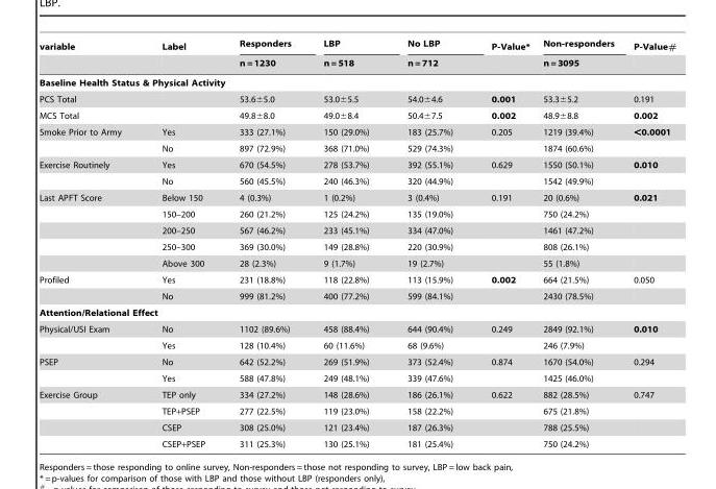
<table><thead><tr><td rowspan="2">variable</td><td rowspan="2">Label</td><td rowspan="2">Responders n = 1230</td><td rowspan="2">LBP n = 518</td><td rowspan="2">No LBP n = 712</td><td rowspan="2">P-Value*</td><td rowspan="2">Non-responders n = 3095</td><td rowspan="2">P-Value#</td></tr><tr></tr></thead><tbody><tr><td colspan="8">Baseline Health Status &amp; Physical Activity</td></tr><tr><td>PCS Total</td><td></td><td>53.6±5.0</td><td>53.0±5.5</td><td>54.0±4.6</td><td>0.001</td><td>53.3±5.2</td><td>0.191</td></tr><tr><td>MCS Total</td><td></td><td>49.8±8.0</td><td>49.0±8.4</td><td>50.4±7.5</td><td>0.002</td><td>48.9±8.8</td><td>0.002</td></tr><tr><td rowspan="2">Smoke Prior to Army</td><td>Yes</td><td>333 (27.1%)</td><td>150 (29.0%)</td><td>183 (25.7%)</td><td>0.205</td><td>1219 (39.4%)</td><td>&lt;0.0001</td></tr><tr><td>No</td><td>897 (72.9%)</td><td>368 (71.0%)</td><td>529 (74.3%)</td><td></td><td>1874 (60.6%)</td><td></td></tr><tr><td rowspan="2">Exercise Routinely</td><td>Yes</td><td>670 (54.5%)</td><td>278 (53.7%)</td><td>392 (55.1%)</td><td>0.629</td><td>1550 (50.1%)</td><td>0.010</td></tr><tr><td>No</td><td>560 (45.5%)</td><td>240 (46.3%)</td><td>320 (44.9%)</td><td></td><td>1542 (49.9%)</td><td></td></tr><tr><td rowspan="5">Last APFT Score</td><td>Below 150</td><td>4 (0.3%)</td><td>1 (0.2%)</td><td>3 (0.4%)</td><td>0.191</td><td>20 (0.6%)</td><td>0.021</td></tr><tr><td>150–200</td><td>260 (21.2%)</td><td>125 (24.2%)</td><td>135 (19.0%)</td><td></td><td>750 (24.2%)</td><td></td></tr><tr><td>200–250</td><td>567 (46.2%)</td><td>233 (45.1%)</td><td>334 (47.0%)</td><td></td><td>1461 (47.2%)</td><td></td></tr><tr><td>250–300</td><td>369 (30.0%)</td><td>149 (28.8%)</td><td>220 (30.9%)</td><td></td><td>808 (26.1%)</td><td></td></tr><tr><td>Above 300</td><td>28 (2.3%)</td><td>9 (1.7%)</td><td>19 (2.7%)</td><td></td><td>55 (1.8%)</td><td></td></tr><tr><td rowspan="2">Profiled</td><td>Yes</td><td>231 (18.8%)</td><td>118 (22.8%)</td><td>113 (15.9%)</td><td>0.002</td><td>664 (21.5%)</td><td>0.050</td></tr><tr><td>No</td><td>999 (81.2%)</td><td>400 (77.2%)</td><td>599 (84.1%)</td><td></td><td>2430 (78.5%)</td><td></td></tr><tr><td colspan="8">Attention/Relational Effect</td></tr><tr><td rowspan="2">Physical/USI Exam</td><td>No</td><td>1102 (89.6%)</td><td>458 (88.4%)</td><td>644 (90.4%)</td><td>0.249</td><td>2849 (92.1%)</td><td>0.010</td></tr><tr><td>Yes</td><td>128 (10.4%)</td><td>60 (11.6%)</td><td>68 (9.6%)</td><td></td><td>246 (7.9%)</td><td></td></tr><tr><td rowspan="2">PSEP</td><td>No</td><td>642 (52.2%)</td><td>269 (51.9%)</td><td>373 (52.4%)</td><td>0.874</td><td>1670 (54.0%)</td><td>0.294</td></tr><tr><td>Yes</td><td>588 (47.8%)</td><td>249 (48.1%)</td><td>339 (47.6%)</td><td></td><td>1425 (46.0%)</td><td></td></tr><tr><td rowspan="4">Exercise Group</td><td>TEP only</td><td>334 (27.2%)</td><td>148 (28.6%)</td><td>186 (26.1%)</td><td>0.622</td><td>882 (28.5%)</td><td>0.747</td></tr><tr><td>TEP+PSEP</td><td>277 (22.5%)</td><td>119 (23.0%)</td><td>158 (22.2%)</td><td></td><td>675 (21.8%)</td><td></td></tr><tr><td>CSEP</td><td>308 (25.0%)</td><td>121 (23.4%)</td><td>187 (26.3%)</td><td></td><td>788 (25.5%)</td><td></td></tr><tr><td>CSEP+PSEP</td><td>311 (25.3%)</td><td>130 (25.1%)</td><td>181 (25.4%)</td><td></td><td>750 (24.2%)</td><td></td></tr></tbody></table>